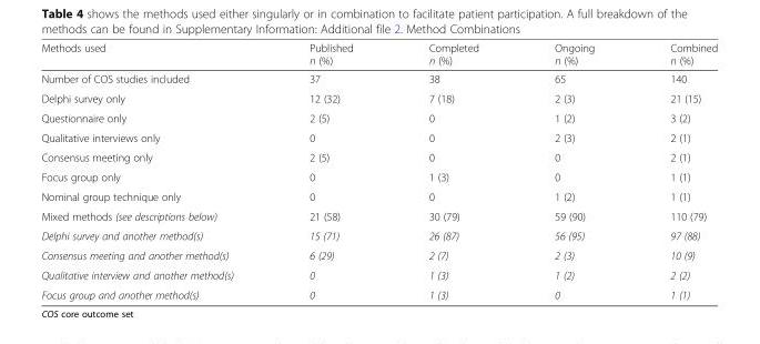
<table><thead><tr><td>Methods used</td><td>Published n (%)</td><td>Completed n (%)</td><td>Ongoing n (%)</td><td>Combined n (%)</td></tr></thead><tbody><tr><td>Number of COS studies included</td><td>37</td><td>38</td><td>65</td><td>140</td></tr><tr><td>Delphi survey only</td><td>12 (32)</td><td>7 (18)</td><td>2 (3)</td><td>21 (15)</td></tr><tr><td>Questionnaire only</td><td>2 (5)</td><td>0</td><td>1 (2)</td><td>3 (2)</td></tr><tr><td>Qualitative interviews only</td><td>0</td><td>0</td><td>2 (3)</td><td>2 (1)</td></tr><tr><td>Consensus meeting only</td><td>2 (5)</td><td>0</td><td>0</td><td>2 (1)</td></tr><tr><td>Focus group only</td><td>0</td><td>1 (3)</td><td>0</td><td>1 (1)</td></tr><tr><td>Nominal group technique only</td><td>0</td><td>0</td><td>1 (2)</td><td>1 (1)</td></tr><tr><td>Mixed methods (see descriptions below)</td><td>21 (58)</td><td>30 (79)</td><td>59 (90)</td><td>110 (79)</td></tr><tr><td>Delphi survey and another method(s)</td><td>15 (71)</td><td>26 (87)</td><td>56 (95)</td><td>97 (88)</td></tr><tr><td>Consensus meeting and another method(s)</td><td>6 (29)</td><td>2 (7)</td><td>2 (3)</td><td>10 (9)</td></tr><tr><td>Qualitative interview and another method(s)</td><td>0</td><td>1 (3)</td><td>1 (2)</td><td>2 (2)</td></tr><tr><td>Focus group and another method(s)</td><td>0</td><td>1 (3)</td><td>0</td><td>1 (1)</td></tr></tbody></table>